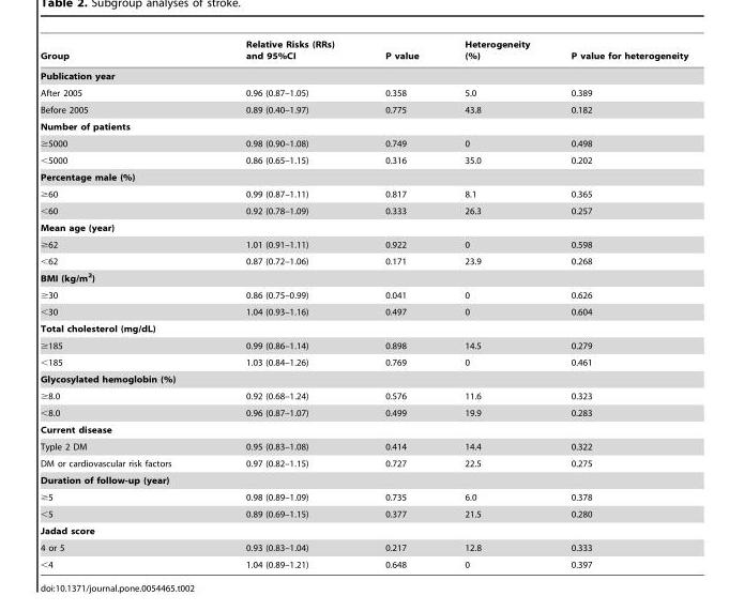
<table><thead><tr><td>Group</td><td>Relative Risks (RRs) and 95%CI</td><td>P value</td><td>Heterogeneity (%)</td><td>P value for heterogeneity</td></tr></thead><tbody><tr><td colspan="5">Publication year</td></tr><tr><td>After 2005</td><td>0.96 (0.87–1.05)</td><td>0.358</td><td>5.0</td><td>0.389</td></tr><tr><td>Before 2005</td><td>0.89 (0.40–1.97)</td><td>0.775</td><td>43.8</td><td>0.182</td></tr><tr><td colspan="5">Number of patients</td></tr><tr><td>≥5000</td><td>0.98 (0.90–1.08)</td><td>0.749</td><td>0</td><td>0.498</td></tr><tr><td>&lt;5000</td><td>0.86 (0.65–1.15)</td><td>0.316</td><td>35.0</td><td>0.202</td></tr><tr><td colspan="5">Percentage male (%)</td></tr><tr><td>≥60</td><td>0.99 (0.87–1.11)</td><td>0.817</td><td>8.1</td><td>0.365</td></tr><tr><td>&lt;60</td><td>0.92 (0.78–1.09)</td><td>0.333</td><td>26.3</td><td>0.257</td></tr><tr><td colspan="5">Mean age (year)</td></tr><tr><td>≥62</td><td>1.01 (0.91–1.11)</td><td>0.922</td><td>0</td><td>0.598</td></tr><tr><td>&lt;62</td><td>0.87 (0.72–1.06)</td><td>0.171</td><td>23.9</td><td>0.268</td></tr><tr><td colspan="5">BMI (kg/m<sup>2</sup>)</td></tr><tr><td>≥30</td><td>0.86 (0.75–0.99)</td><td>0.041</td><td>0</td><td>0.626</td></tr><tr><td>&lt;30</td><td>1.04 (0.93–1.16)</td><td>0.497</td><td>0</td><td>0.604</td></tr><tr><td colspan="5">Total cholesterol (mg/dL)</td></tr><tr><td>≥185</td><td>0.99 (0.86–1.14)</td><td>0.898</td><td>14.5</td><td>0.279</td></tr><tr><td>&lt;185</td><td>1.03 (0.84–1.26)</td><td>0.769</td><td>0</td><td>0.461</td></tr><tr><td colspan="5">Glycosylated hemoglobin (%)</td></tr><tr><td>≥8.0</td><td>0.92 (0.68–1.24)</td><td>0.576</td><td>11.6</td><td>0.323</td></tr><tr><td>&lt;8.0</td><td>0.96 (0.87–1.07)</td><td>0.499</td><td>19.9</td><td>0.283</td></tr><tr><td colspan="5">Current disease</td></tr><tr><td>Typle 2 DM</td><td>0.95 (0.83–1.08)</td><td>0.414</td><td>14.4</td><td>0.322</td></tr><tr><td>DM or cardiovascular risk factors</td><td>0.97 (0.82–1.15)</td><td>0.727</td><td>22.5</td><td>0.275</td></tr><tr><td colspan="5">Duration of follow-up (year)</td></tr><tr><td>≥5</td><td>0.98 (0.89–1.09)</td><td>0.735</td><td>6.0</td><td>0.378</td></tr><tr><td>&lt;5</td><td>0.89 (0.69–1.15)</td><td>0.377</td><td>21.5</td><td>0.280</td></tr><tr><td colspan="5">Jadad score</td></tr><tr><td>4 or 5</td><td>0.93 (0.83–1.04)</td><td>0.217</td><td>12.8</td><td>0.333</td></tr><tr><td>&lt;4</td><td>1.04 (0.89–1.21)</td><td>0.648</td><td>0</td><td>0.397</td></tr></tbody></table>